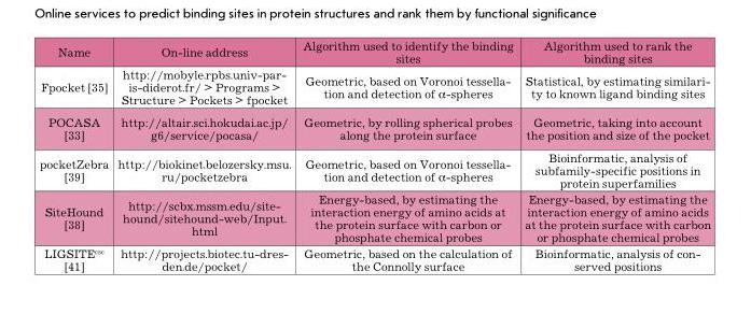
<table><thead><tr><td>Name</td><td>On-line address</td><td>Algorithm used to identify the binding sites</td><td>Algorithm used to rank the binding sites</td></tr></thead><tbody><tr><td>Fpocket [35]</td><td>http://mobyle.rpbs.univ-par- is-diderot.fr/ &gt; Programs &gt; Structure &gt; Pockets &gt; fpocket</td><td>Geometric, based on Voronoi tessella- tion and detection of α-spheres</td><td>Statistical, by estimating similari- ty to known ligand binding sites</td></tr><tr><td>POCASA [33]</td><td>http://altair.sci.hokudai.ac.jp/ g6/service/pocasa/</td><td>Geometric, by rolling spherical probes along the protein surface</td><td>Geometric, taking into account the position and size of the pocket</td></tr><tr><td>pocketZebra [39]</td><td>http://biokinet.belozersky.msu. ru/pocketzebra</td><td>Geometric, based on Voronoi tessella- tion and detection of α-spheres</td><td>Bioinformatic, analysis of subfamily-specific positions in protein superfamilies</td></tr><tr><td>SiteHound [38]</td><td>http://scbx.mssm.edu/site- hound/sitehound-web/Input. html</td><td>Energy-based, by estimating the interaction energy of amino acids at the protein surface with carbon or phosphate chemical probes</td><td>Energy-based, by estimating the interaction energy of amino acids at the protein surface with carbon or phosphate chemical probes</td></tr><tr><td>LIGSITEcsc [41]</td><td>http://projects.biotec.tu-dres- den.de/pocket/</td><td>Geometric, based on the calculation of the Connolly surface</td><td>Bioinformatic, analysis of con- served positions</td></tr></tbody></table>